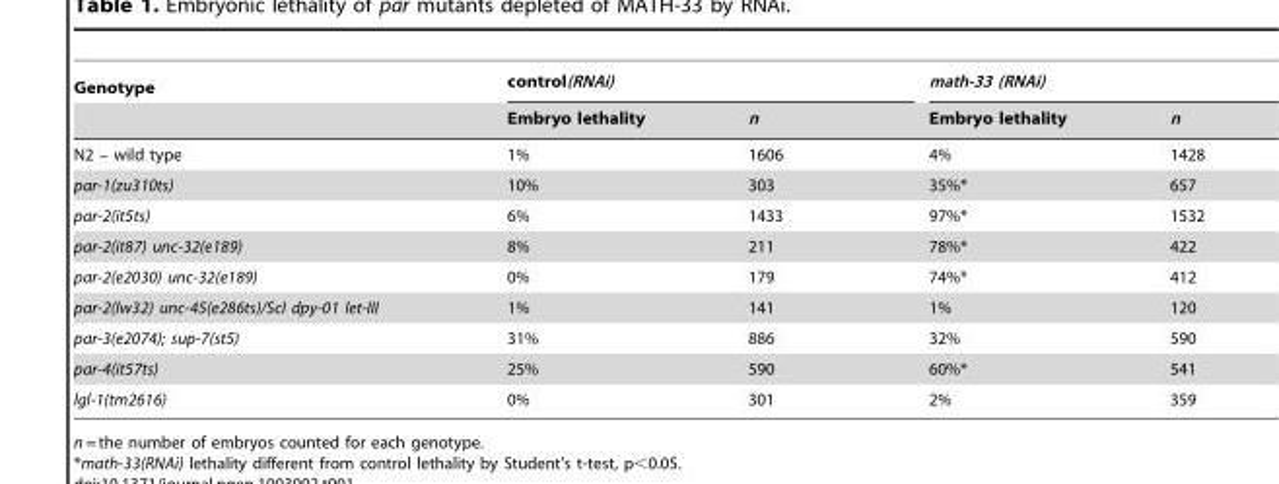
<table><thead><tr><td rowspan="2">Genotype</td><td colspan="2">control(RNAi)</td><td colspan="2">math-33 (RNAi)</td></tr><tr><td>Embryo lethality</td><td>n</td><td>Embryo lethality</td><td>n</td></tr></thead><tbody><tr><td>N2 – wild type</td><td>1%</td><td>1606</td><td>4%</td><td>1428</td></tr><tr><td>par-1(zu310ts)</td><td>10%</td><td>303</td><td>35%*</td><td>657</td></tr><tr><td>par-2(it5ts)</td><td>6%</td><td>1433</td><td>97%*</td><td>1532</td></tr><tr><td>par-2(it87) unc-32(e189)</td><td>8%</td><td>211</td><td>78%*</td><td>422</td></tr><tr><td>par-2(e2030) unc-32(e189)</td><td>0%</td><td>179</td><td>74%*</td><td>412</td></tr><tr><td>par-2(lw32) unc-45(e286ts)/ScI dpy-01 let-III</td><td>1%</td><td>141</td><td>1%</td><td>120</td></tr><tr><td>par-3(e2074); sup-7(st5)</td><td>31%</td><td>886</td><td>32%</td><td>590</td></tr><tr><td>par-4(it57ts)</td><td>25%</td><td>590</td><td>60%*</td><td>541</td></tr><tr><td>lgl-1(tm2616)</td><td>0%</td><td>301</td><td>2%</td><td>359</td></tr></tbody></table>